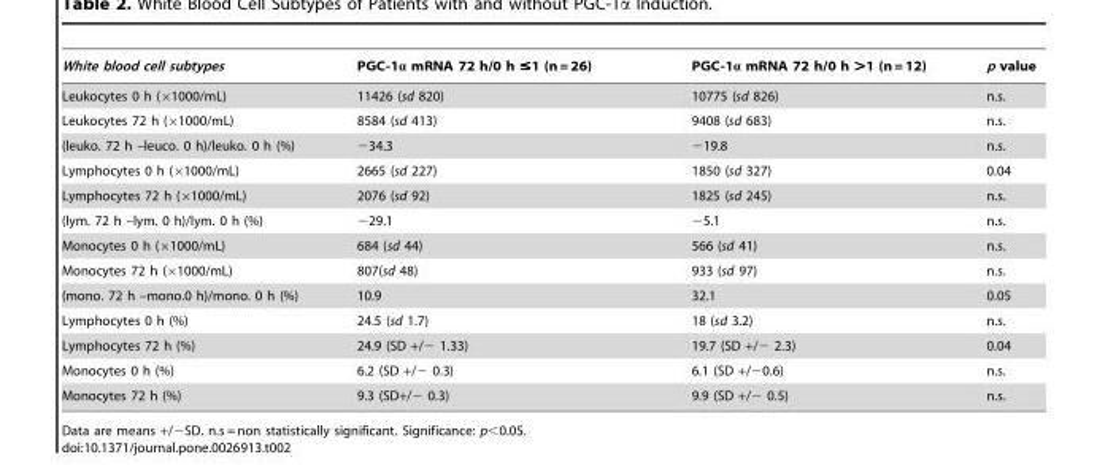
<table><thead><tr><td>White blood cell subtypes</td><td>PGC-1α mRNA 72 h/0 h ≤1 (n = 26)</td><td>PGC-1α mRNA 72 h/0 h &gt;1 (n = 12)</td><td>p value</td></tr></thead><tbody><tr><td>Leukocytes 0 h (×1000/mL)</td><td>11426 (sd 820)</td><td>10775 (sd 826)</td><td>n.s.</td></tr><tr><td>Leukocytes 72 h (×1000/mL)</td><td>8584 (sd 413)</td><td>9408 (sd 683)</td><td>n.s.</td></tr><tr><td>(leuko. 72 h –leuco. 0 h)/leuko. 0 h (%)</td><td>−34.3</td><td>−19.8</td><td>n.s.</td></tr><tr><td>Lymphocytes 0 h (×1000/mL)</td><td>2665 (sd 227)</td><td>1850 (sd 327)</td><td>0.04</td></tr><tr><td>Lymphocytes 72 h (×1000/mL)</td><td>2076 (sd 92)</td><td>1825 (sd 245)</td><td>n.s.</td></tr><tr><td>(lym. 72 h –lym. 0 h)/lym. 0 h (%)</td><td>−29.1</td><td>−5.1</td><td>n.s.</td></tr><tr><td>Monocytes 0 h (×1000/mL)</td><td>684 (sd 44)</td><td>566 (sd 41)</td><td>n.s.</td></tr><tr><td>Monocytes 72 h (×1000/mL)</td><td>807(sd 48)</td><td>933 (sd 97)</td><td>n.s.</td></tr><tr><td>(mono. 72 h –mono.0 h)/mono. 0 h (%)</td><td>10.9</td><td>32.1</td><td>0.05</td></tr><tr><td>Lymphocytes 0 h (%)</td><td>24.5 (sd 1.7)</td><td>18 (sd 3.2)</td><td>n.s.</td></tr><tr><td>Lymphocytes 72 h (%)</td><td>24.9 (SD +/− 1.33)</td><td>19.7 (SD +/− 2.3)</td><td>0.04</td></tr><tr><td>Monocytes 0 h (%)</td><td>6.2 (SD +/− 0.3)</td><td>6.1 (SD +/−0.6)</td><td>n.s.</td></tr><tr><td>Monocytes 72 h (%)</td><td>9.3 (SD+/− 0.3)</td><td>9.9 (SD +/− 0.5)</td><td>n.s.</td></tr></tbody></table>